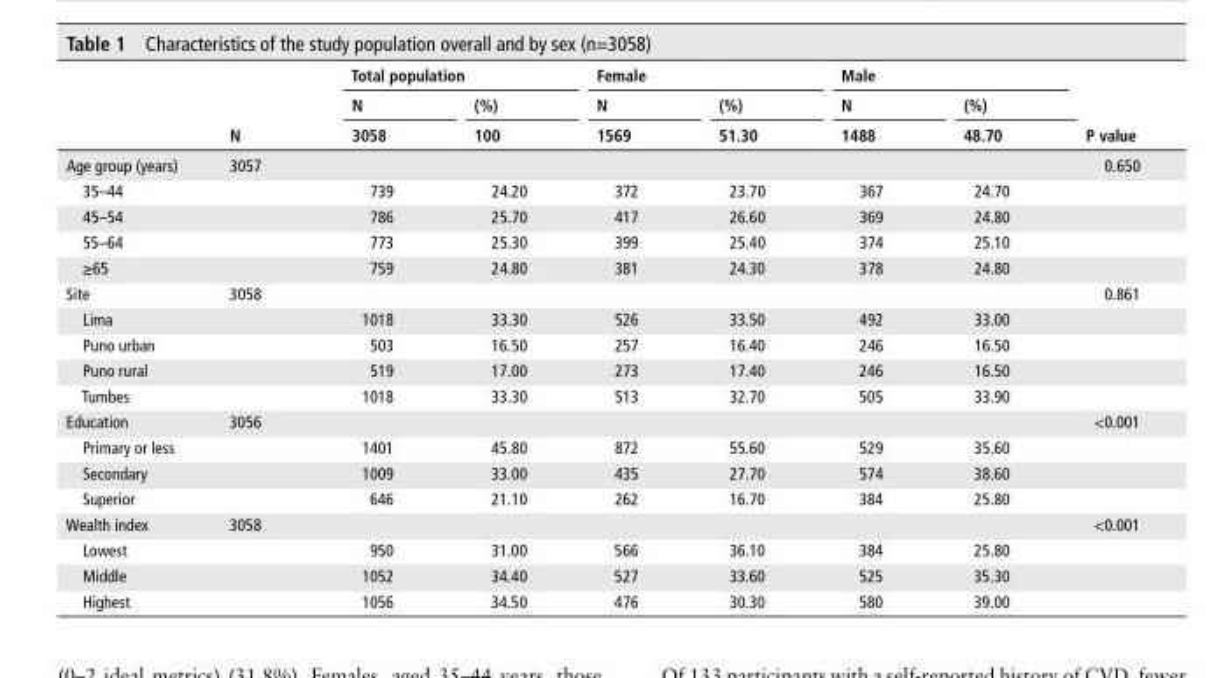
<table><thead><tr><td rowspan="3"></td><td rowspan="3">n</td><td colspan="2">Total population</td><td colspan="2">Female</td><td colspan="2">Male</td><td rowspan="3">P value</td></tr><tr><td rowspan="2">n 3058</td><td rowspan="2">(%) 100</td><td rowspan="2">n 1569</td><td rowspan="2">(%) 51.30</td><td rowspan="2">n 1488</td><td rowspan="2">(%) 48.70</td></tr><tr></tr></thead><tbody><tr><td>Age group (years)</td><td>3057</td><td></td><td></td><td></td><td></td><td></td><td></td><td>0.650</td></tr><tr><td>35–44</td><td></td><td>739</td><td>24.20</td><td>372</td><td>23.70</td><td>367</td><td>24.70</td><td></td></tr><tr><td>45–54</td><td></td><td>786</td><td>25.70</td><td>417</td><td>26.60</td><td>369</td><td>24.80</td><td></td></tr><tr><td>55–64</td><td></td><td>773</td><td>25.30</td><td>399</td><td>25.40</td><td>374</td><td>25.10</td><td></td></tr><tr><td>≥65</td><td></td><td>759</td><td>24.80</td><td>381</td><td>24.30</td><td>378</td><td>24.80</td><td></td></tr><tr><td>Site</td><td>3058</td><td></td><td></td><td></td><td></td><td></td><td></td><td>0.861</td></tr><tr><td>Lima</td><td></td><td>1018</td><td>33.30</td><td>526</td><td>33.50</td><td>492</td><td>33.00</td><td></td></tr><tr><td>Puno urban</td><td></td><td>503</td><td>16.50</td><td>257</td><td>16.40</td><td>246</td><td>16.50</td><td></td></tr><tr><td>Puno rural</td><td></td><td>519</td><td>17.00</td><td>273</td><td>17.40</td><td>246</td><td>16.50</td><td></td></tr><tr><td>Tumbes</td><td></td><td>1018</td><td>33.30</td><td>513</td><td>32.70</td><td>505</td><td>33.90</td><td></td></tr><tr><td>Education</td><td>3056</td><td></td><td></td><td></td><td></td><td></td><td></td><td>&lt;0.001</td></tr><tr><td>Primary or less</td><td></td><td>1401</td><td>45.80</td><td>872</td><td>55.60</td><td>529</td><td>35.60</td><td></td></tr><tr><td>Secondary</td><td></td><td>1009</td><td>33.00</td><td>435</td><td>27.70</td><td>574</td><td>38.60</td><td></td></tr><tr><td>Superior</td><td></td><td>646</td><td>21.10</td><td>262</td><td>16.70</td><td>384</td><td>25.80</td><td></td></tr><tr><td>Wealth index</td><td>3058</td><td></td><td></td><td></td><td></td><td></td><td></td><td>&lt;0.001</td></tr><tr><td>Lowest</td><td></td><td>950</td><td>31.00</td><td>566</td><td>36.10</td><td>384</td><td>25.80</td><td></td></tr><tr><td>Middle</td><td></td><td>1052</td><td>34.40</td><td>527</td><td>33.60</td><td>525</td><td>35.30</td><td></td></tr><tr><td>Highest</td><td></td><td>1056</td><td>34.50</td><td>476</td><td>30.30</td><td>580</td><td>39.00</td><td></td></tr></tbody></table>